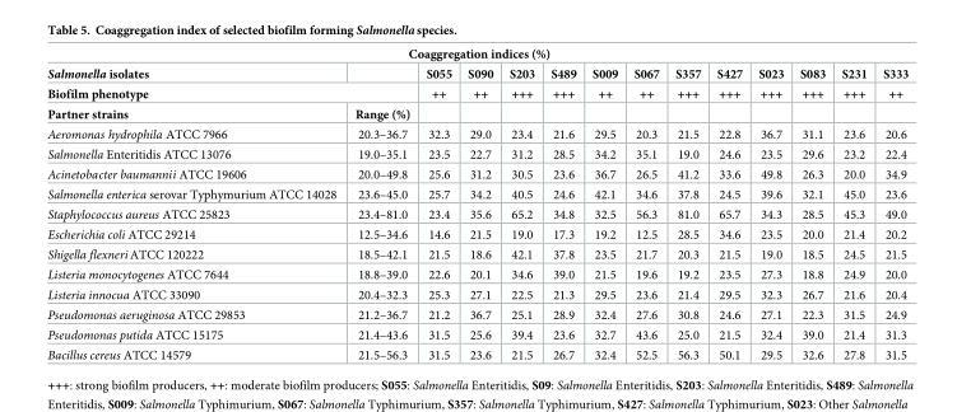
<table><thead><tr><td colspan="14">Coaggregation indices (%)</td></tr><tr><td>Salmonella isolates</td><td></td><td rowspan="3">S055 ++</td><td rowspan="3">S090 ++</td><td rowspan="3">S203 +++</td><td rowspan="3">S489 +++</td><td rowspan="3">S009 ++</td><td rowspan="3">S067 ++</td><td rowspan="3">S357 +++</td><td rowspan="3">S427 +++</td><td rowspan="3">S023 +++</td><td rowspan="3">S083 +++</td><td rowspan="3">S231 +++</td><td rowspan="3">S333 ++</td></tr><tr><td colspan="2">Biofilm phenotype</td></tr><tr><td>Partner strains</td><td>Range (%)</td></tr></thead><tbody><tr><td>Aeromonas hydrophila ATCC 7966</td><td>20.3–36.7</td><td>32.3</td><td>29.0</td><td>23.4</td><td>21.6</td><td>29.5</td><td>20.3</td><td>21.5</td><td>22.8</td><td>36.7</td><td>31.1</td><td>23.6</td><td>20.6</td></tr><tr><td>Salmonella Enteritidis ATCC 13076</td><td>19.0–35.1</td><td>23.5</td><td>22.7</td><td>31.2</td><td>28.5</td><td>34.2</td><td>35.1</td><td>19.0</td><td>24.6</td><td>23.5</td><td>29.6</td><td>23.2</td><td>22.4</td></tr><tr><td>Acinetobacter baumannii ATCC 19606</td><td>20.0–49.8</td><td>25.6</td><td>31.2</td><td>30.5</td><td>23.6</td><td>36.7</td><td>26.5</td><td>41.2</td><td>33.6</td><td>49.8</td><td>26.3</td><td>20.0</td><td>34.9</td></tr><tr><td>Salmonella enterica serovar Typhymurium ATCC 14028</td><td>23.6–45.0</td><td>25.7</td><td>34.2</td><td>40.5</td><td>24.6</td><td>42.1</td><td>34.6</td><td>37.8</td><td>24.5</td><td>39.6</td><td>32.1</td><td>45.0</td><td>23.6</td></tr><tr><td>Staphylococcus aureus ATCC 25823</td><td>23.4–81.0</td><td>23.4</td><td>35.6</td><td>65.2</td><td>34.8</td><td>32.5</td><td>56.3</td><td>81.0</td><td>65.7</td><td>34.3</td><td>28.5</td><td>45.3</td><td>49.0</td></tr><tr><td>Escherichia coli ATCC 29214</td><td>12.5–34.6</td><td>14.6</td><td>21.5</td><td>19.0</td><td>17.3</td><td>19.2</td><td>12.5</td><td>28.5</td><td>34.6</td><td>23.5</td><td>20.0</td><td>21.4</td><td>20.2</td></tr><tr><td>Shigella flexneri ATCC 120222</td><td>18.5–42.1</td><td>21.5</td><td>18.6</td><td>42.1</td><td>37.8</td><td>23.5</td><td>21.7</td><td>20.3</td><td>21.5</td><td>19.0</td><td>18.5</td><td>24.5</td><td>21.5</td></tr><tr><td>Listeria monocytogenes ATCC 7644</td><td>18.8–39.0</td><td>22.6</td><td>20.1</td><td>34.6</td><td>39.0</td><td>21.5</td><td>19.6</td><td>19.2</td><td>23.5</td><td>27.3</td><td>18.8</td><td>24.9</td><td>20.0</td></tr><tr><td>Listeria innocua ATCC 33090</td><td>20.4–32.3</td><td>25.3</td><td>27.1</td><td>22.5</td><td>21.3</td><td>29.5</td><td>23.6</td><td>21.4</td><td>29.5</td><td>32.3</td><td>26.7</td><td>21.6</td><td>20.4</td></tr><tr><td>Pseudomonas aeruginosa ATCC 29853</td><td>21.2–36.7</td><td>21.2</td><td>36.7</td><td>25.1</td><td>28.9</td><td>32.4</td><td>27.6</td><td>30.8</td><td>24.6</td><td>27.1</td><td>22.3</td><td>31.5</td><td>24.9</td></tr><tr><td>Pseudomonas putida ATCC 15175</td><td>21.4–43.6</td><td>31.5</td><td>25.6</td><td>39.4</td><td>23.6</td><td>32.7</td><td>43.6</td><td>25.0</td><td>21.5</td><td>32.4</td><td>39.0</td><td>21.4</td><td>31.3</td></tr><tr><td>Bacillus cereus ATCC 14579</td><td>21.5–56.3</td><td>31.5</td><td>23.6</td><td>21.5</td><td>26.7</td><td>32.4</td><td>52.5</td><td>56.3</td><td>50.1</td><td>29.5</td><td>32.6</td><td>27.8</td><td>31.5</td></tr></tbody></table>